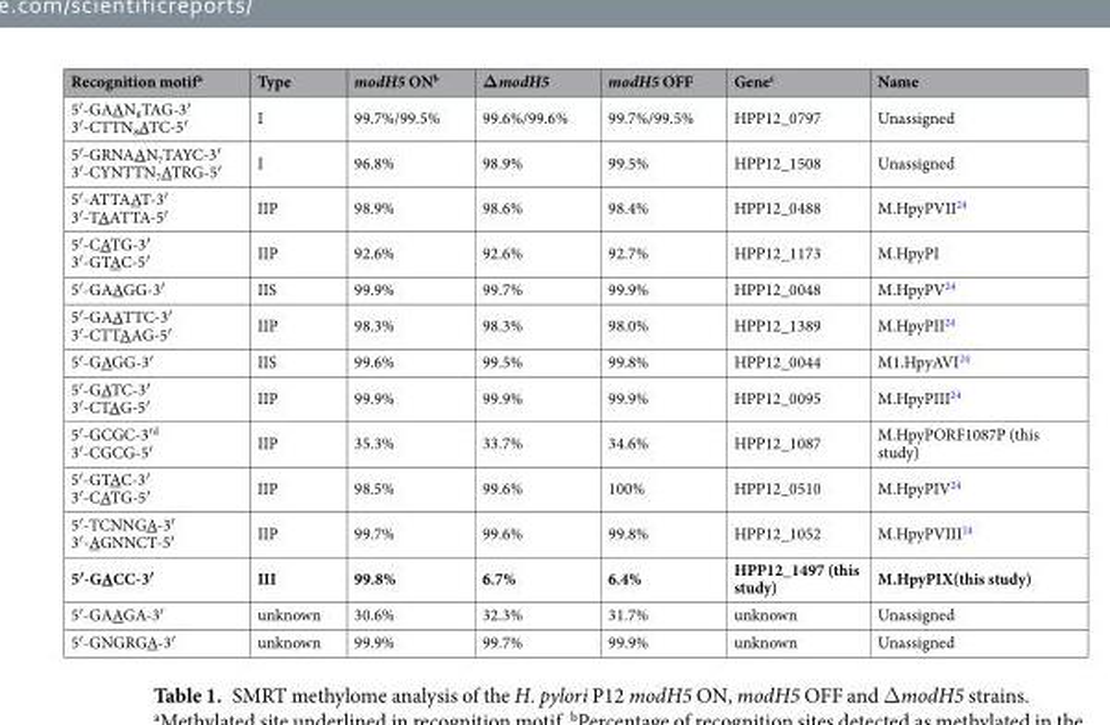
<table><thead><tr><td>Recognition motif<sup>a</sup></td><td>Type</td><td>modH5 ON<sup>b</sup></td><td>ΔmodH5</td><td>modH5 OFF</td><td>Gene<sup>c</sup></td><td>Name</td></tr></thead><tbody><tr><td>5′-GAAN<sub>8</sub>TAG-3′ 3′-CTTN<sub>8</sub>ATC-5′</td><td>I</td><td>99.7%/99.5%</td><td>99.6%/99.6%</td><td>99.7%/99.5%</td><td>HPP12_0797</td><td>Unassigned</td></tr><tr><td>5′-GRNAAN<sub>7</sub>TAYC-3′ 3′-CYNTTN<sub>7</sub>ATRG-5′</td><td>I</td><td>96.8%</td><td>98.9%</td><td>99.5%</td><td>HPP12_1508</td><td>Unassigned</td></tr><tr><td>5′-ATTAAT-3′ 3′-TAATTA-5′</td><td>IIP</td><td>98.9%</td><td>98.6%</td><td>98.4%</td><td>HPP12_0488</td><td>M.HpyPVII<sup>24</sup></td></tr><tr><td>5′-CATG-3′ 3′-GTAC-5′</td><td>IIP</td><td>92.6%</td><td>92.6%</td><td>92.7%</td><td>HPP12_1173</td><td>M.HpyPI</td></tr><tr><td>5′-GAAGG-3′</td><td>IIS</td><td>99.9%</td><td>99.7%</td><td>99.9%</td><td>HPP12_0048</td><td>M.HpyPV<sup>24</sup></td></tr><tr><td>5′-GAATTC-3′ 3′-CTTAAG-5′</td><td>IIP</td><td>98.3%</td><td>98.3%</td><td>98.0%</td><td>HPP12_1389</td><td>M.HpyPII<sup>24</sup></td></tr><tr><td>5′-GAGG-3′</td><td>IIS</td><td>99.6%</td><td>99.5%</td><td>99.8%</td><td>HPP12_0044</td><td>M1.HpyAVI<sup>24</sup></td></tr><tr><td>5′-GATC-3′ 3′-CTAG-5′</td><td>IIP</td><td>99.9%</td><td>99.9%</td><td>99.9%</td><td>HPP12_0095</td><td>M.HpyPIII<sup>24</sup></td></tr><tr><td>5′-GCGC-3′<sup>d</sup> 3′-CGCG-5′</td><td>IIP</td><td>35.3%</td><td>33.7%</td><td>34.6%</td><td>HPP12_1087</td><td>M.HpyPORF1087P (this study)</td></tr><tr><td>5′-GTAC-3′ 3′-CATG-5′</td><td>IIP</td><td>98.5%</td><td>99.6%</td><td>100%</td><td>HPP12_0510</td><td>M.HpyPIV<sup>24</sup></td></tr><tr><td>5′-TCNNGA-3′ 3′-AGNNCT-5′</td><td>IIP</td><td>99.7%</td><td>99.6%</td><td>99.8%</td><td>HPP12_1052</td><td>M.HpyPVIII<sup>24</sup></td></tr><tr><td>5′-GACC-3′</td><td>III</td><td>99.8%</td><td>6.7%</td><td>6.4%</td><td>HPP12_1497 (this study)</td><td>M.HpyPIX(this study)</td></tr><tr><td>5′-GAAGA-3′</td><td>unknown</td><td>30.6%</td><td>32.3%</td><td>31.7%</td><td>unknown</td><td>Unassigned</td></tr><tr><td>5′-GNGRGA-3′</td><td>unknown</td><td>99.9%</td><td>99.7%</td><td>99.9%</td><td>unknown</td><td>Unassigned</td></tr></tbody></table>